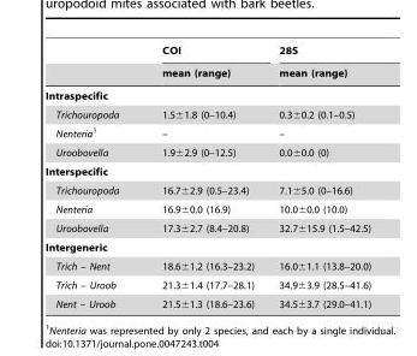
<table><thead><tr><td rowspan="2"></td><td rowspan="2">COI mean (range)</td><td rowspan="2">28S mean (range)</td></tr><tr></tr></thead><tbody><tr><td colspan="3">Intraspecific</td></tr><tr><td>Trichouropoda</td><td>1.5±1.8 (0–10.4)</td><td>0.3±0.2 (0.1–0.5)</td></tr><tr><td>Nenteria1</td><td>–</td><td>–</td></tr><tr><td>Uroobovella</td><td>1.9±2.9 (0–12.5)</td><td>0.0±0.0 (0)</td></tr><tr><td colspan="3">Interspecific</td></tr><tr><td>Trichouropoda</td><td>16.7±2.9 (0.5–23.4)</td><td>7.1±5.0 (0–16.6)</td></tr><tr><td>Nenteria</td><td>16.9±0.0 (16.9)</td><td>10.0±0.0 (10.0)</td></tr><tr><td>Uroobovella</td><td>17.3±2.7 (8.4–20.8)</td><td>32.7±15.9 (1.5–42.5)</td></tr><tr><td colspan="3">Intergeneric</td></tr><tr><td>Trich – Nent</td><td>18.6±1.2 (16.3–23.2)</td><td>16.0±1.1 (13.8–20.0)</td></tr><tr><td>Trich – Uroob</td><td>21.3±1.4 (17.7–28.1)</td><td>34.9±3.9 (28.5–41.6)</td></tr><tr><td>Nent – Uroob</td><td>21.5±1.3 (18.6–23.6)</td><td>34.5±3.7 (29.0–41.1)</td></tr></tbody></table>